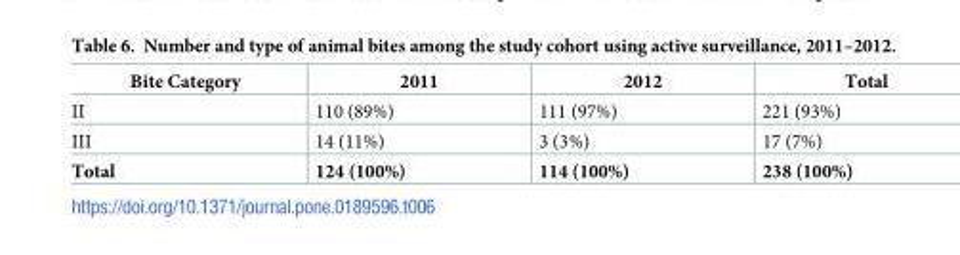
<table><thead><tr><td>Bite Category</td><td>2011</td><td>2012</td><td>Total</td></tr></thead><tbody><tr><td>II</td><td>110 (89%)</td><td>111 (97%)</td><td>221 (93%)</td></tr><tr><td>III</td><td>14 (11%)</td><td>3 (3%)</td><td>17 (7%)</td></tr><tr><td>Total</td><td>124 (100%)</td><td>114 (100%)</td><td>238 (100%)</td></tr></tbody></table>